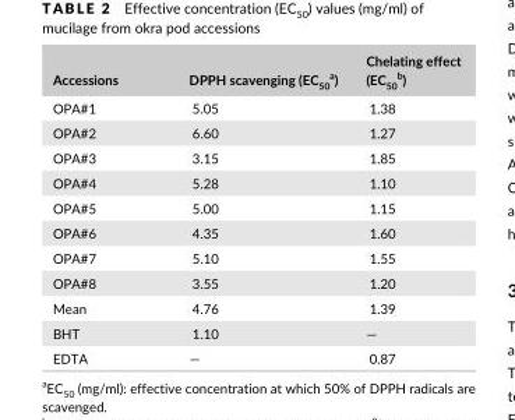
<table><thead><tr><td>Accessions</td><td>DPPH scavenging (EC<sub>50</sub> a)</td><td>Chelating effect (EC<sub>50</sub> b)</td></tr></thead><tbody><tr><td>OPA#1</td><td>5.05</td><td>1.38</td></tr><tr><td>OPA#2</td><td>6.60</td><td>1.27</td></tr><tr><td>OPA#3</td><td>3.15</td><td>1.85</td></tr><tr><td>OPA#4</td><td>5.28</td><td>1.10</td></tr><tr><td>OPA#5</td><td>5.00</td><td>1.15</td></tr><tr><td>OPA#6</td><td>4.35</td><td>1.60</td></tr><tr><td>OPA#7</td><td>5.10</td><td>1.55</td></tr><tr><td>OPA#8</td><td>3.55</td><td>1.20</td></tr><tr><td>Mean</td><td>4.76</td><td>1.39</td></tr><tr><td>BHT</td><td>1.10</td><td>—</td></tr><tr><td>EDTA</td><td>—</td><td>0.87</td></tr></tbody></table>